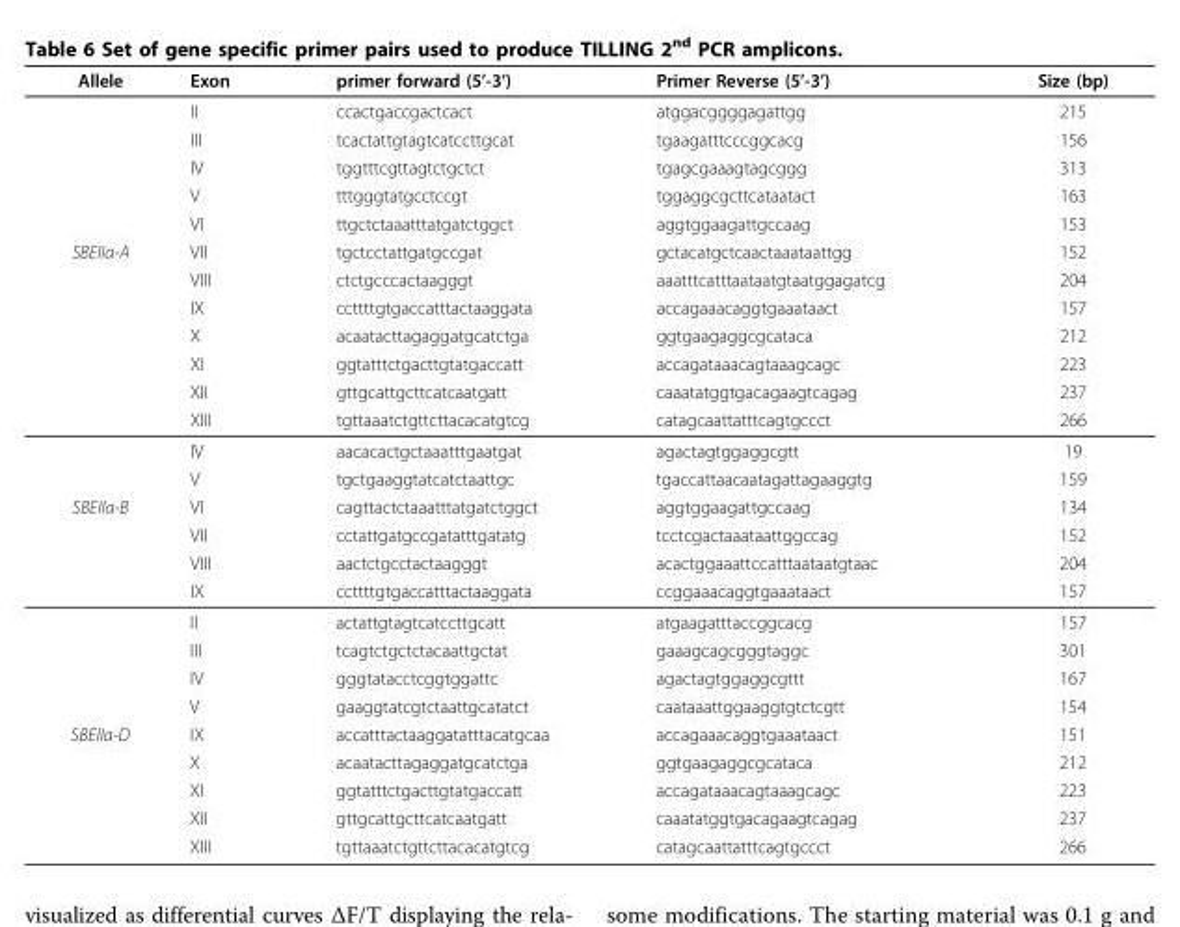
<table><thead><tr><td>Allele</td><td>Exon</td><td>primer forward (5’-3’)</td><td>Primer Reverse (5’-3’)</td><td>Size (bp)</td></tr></thead><tbody><tr><td></td><td>II</td><td>ccactgaccgactcact</td><td>atggacggggagattgg</td><td>215</td></tr><tr><td></td><td>III</td><td>tcactattgtagtcatccttgcat</td><td>tgaagatttcccggcacg</td><td>156</td></tr><tr><td></td><td>IV</td><td>tggtttcgttagtctgctct</td><td>tgagcgaaagtagcggg</td><td>313</td></tr><tr><td></td><td>V</td><td>tttgggtatgcctccgt</td><td>tggaggcgcttcataatact</td><td>163</td></tr><tr><td></td><td>VI</td><td>ttgctctaaatttatgatctggct</td><td>aggtggaagattgccaag</td><td>153</td></tr><tr><td rowspan="9">SBEIIa-A</td><td>VII</td><td>tgctcctattgatgccgat</td><td>gctacatgctcaactaaataattgg</td><td>152</td></tr><tr><td>VIII</td><td>ctctgcccactaagggt</td><td>aaatttcatttaataatgtaatggagatcg</td><td>204</td></tr><tr><td>IX</td><td>ccttttgtgaccatttactaaggata</td><td>accagaaacaggtgaaataact</td><td>157</td></tr><tr><td>X</td><td>acaatacttagaggatgcatctga</td><td>ggtgaagaggcgcataca</td><td>212</td></tr><tr><td>XI</td><td>ggtatttctgacttgtatgaccatt</td><td>accagataaacagtaaagcagc</td><td>223</td></tr><tr><td>XII</td><td>gttgcattgcttcatcaatgatt</td><td>caaatatggtgacagaagtcagag</td><td>237</td></tr><tr><td>XIII</td><td>tgttaaatctgttcttacacatgtcg</td><td>catagcaattatttcagtgccct</td><td>266</td></tr><tr><td>IV</td><td>aacacactgctaaatttgaatgat</td><td>agactagtggaggcgtt</td><td>19</td></tr><tr><td>V</td><td>tgctgaaggtatcatctaattgc</td><td>tgaccattaacaatagattagaaggtg</td><td>159</td></tr><tr><td rowspan="8">SBEIIa-B</td><td>VI</td><td>cagttactctaaatttatgatctggct</td><td>aggtggaagattgccaag</td><td>134</td></tr><tr><td>VII</td><td>cctattgatgccgatatttgatatg</td><td>tcctcgactaaataattggccag</td><td>152</td></tr><tr><td>VIII</td><td>aactctgcctactaagggt</td><td>acactggaaattccatttaataatgtaac</td><td>204</td></tr><tr><td>IX</td><td>ccttttgtgaccatttactaaggata</td><td>ccggaaacaggtgaaataact</td><td>157</td></tr><tr><td>II</td><td>actattgtagtcatccttgcatt</td><td>atgaagatttaccggcacg</td><td>157</td></tr><tr><td>III</td><td>tcagtctgctctacaattgctat</td><td>gaaagcagcgggtaggc</td><td>301</td></tr><tr><td>IV</td><td>gggtatacctcggtggattc</td><td>agactagtggaggcgttt</td><td>167</td></tr><tr><td>V</td><td>gaaggtatcgtctaattgcatatct</td><td>caataaattggaaggtgtctcgtt</td><td>154</td></tr><tr><td rowspan="5">SBEIIa-D</td><td>IX</td><td>accatttactaaggatatttacatgcaa</td><td>accagaaacaggtgaaataact</td><td>151</td></tr><tr><td>X</td><td>acaatacttagaggatgcatctga</td><td>ggtgaagaggcgcataca</td><td>212</td></tr><tr><td>XI</td><td>ggtatttctgacttgtatgaccatt</td><td>accagataaacagtaaagcagc</td><td>223</td></tr><tr><td>XII</td><td>gttgcattgcttcatcaatgatt</td><td>caaatatggtgacagaagtcagag</td><td>237</td></tr><tr><td>XIII</td><td>tgttaaatctgttcttacacatgtcg</td><td>catagcaattatttcagtgccct</td><td>266</td></tr></tbody></table>